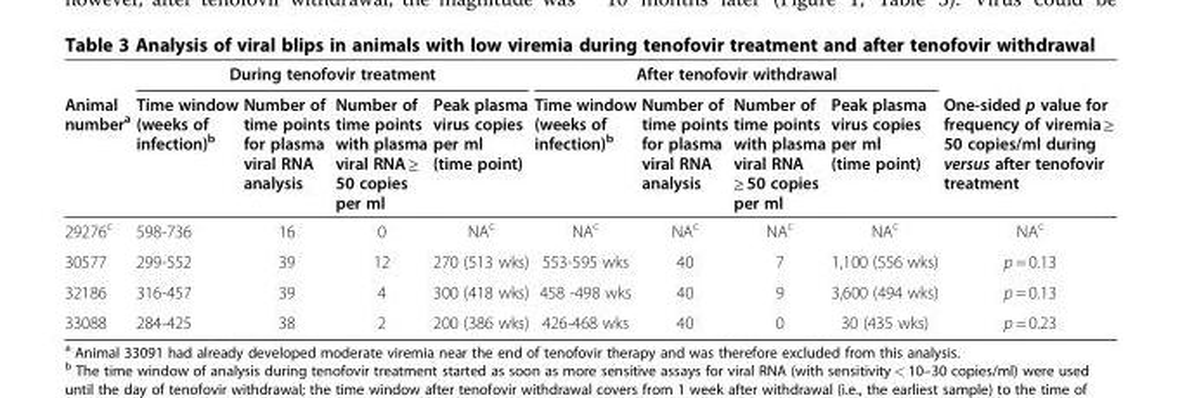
<table><thead><tr><td rowspan="2">Animal number<sup>a</sup></td><td colspan="4">During tenofovir treatment</td><td colspan="4">After tenofovir withdrawal</td><td rowspan="2">One-sided p value for frequency of viremia ≥ 50 copies/ml during versus after tenofovir treatment</td></tr><tr><td>Time window (weeks of infection)<sup>b</sup></td><td>Number of time points for plasma viral RNA analysis</td><td>Number of time points with plasma viral RNA ≥ 50 copies per ml</td><td>Peak plasma virus copies per ml (time point)</td><td>Time window (weeks of infection)<sup>b</sup></td><td>Number of time points for plasma viral RNA analysis</td><td>Number of time points with plasma viral RNA ≥ 50 copies per ml</td><td>Peak plasma virus copies per ml (time point)</td></tr></thead><tbody><tr><td>29276<sup>c</sup></td><td>598-736</td><td>16</td><td>0</td><td>NA<sup>c</sup></td><td>NA<sup>c</sup></td><td>NA<sup>c</sup></td><td>NA<sup>c</sup></td><td>NA<sup>c</sup></td><td>NA<sup>c</sup></td></tr><tr><td>30577</td><td>299-552</td><td>39</td><td>12</td><td>270 (513 wks)</td><td>553-595 wks</td><td>40</td><td>7</td><td>1,100 (556 wks)</td><td>p = 0.13</td></tr><tr><td>32186</td><td>316-457</td><td>39</td><td>4</td><td>300 (418 wks)</td><td>458 -498 wks</td><td>40</td><td>9</td><td>3,600 (494 wks)</td><td>p = 0.13</td></tr><tr><td>33088</td><td>284-425</td><td>38</td><td>2</td><td>200 (386 wks)</td><td>426-468 wks</td><td>40</td><td>0</td><td>30 (435 wks)</td><td>p = 0.23</td></tr></tbody></table>